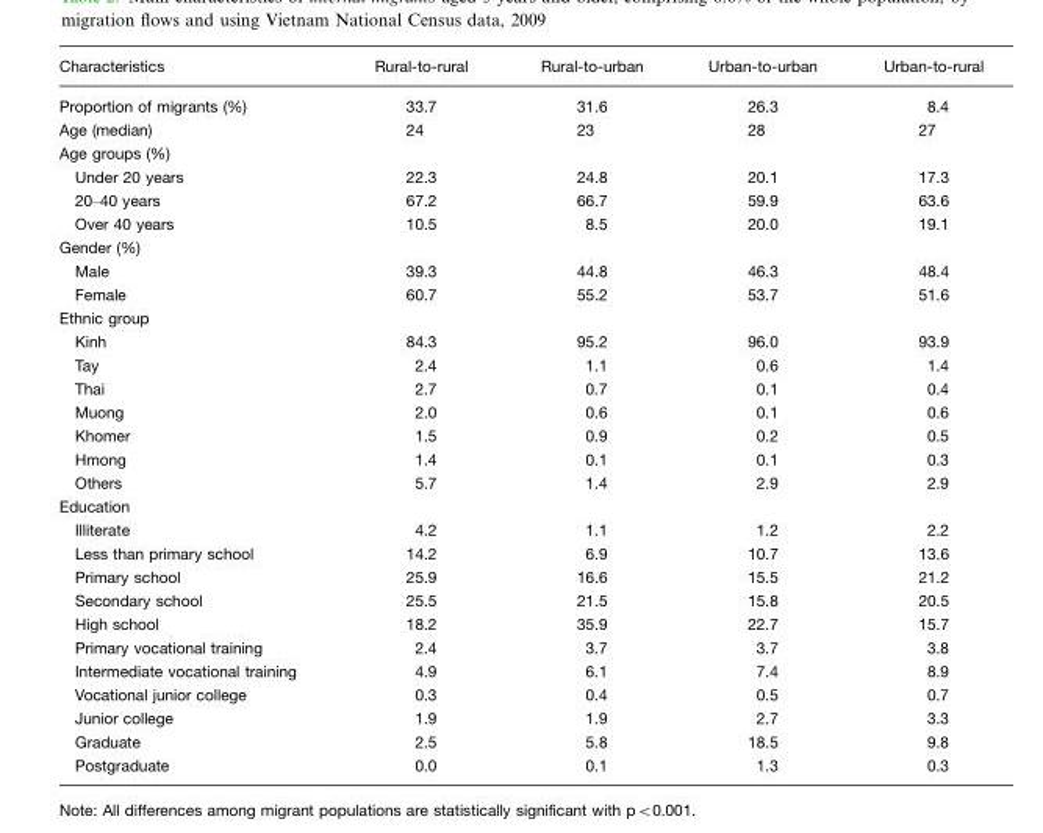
<table><thead><tr><td>Characteristics</td><td>Rural-to-rural</td><td>Rural-to-urban</td><td>Urban-to-urban</td><td>Urban-to-rural</td></tr></thead><tbody><tr><td>Proportion of migrants (%)</td><td>33.7</td><td>31.6</td><td>26.3</td><td>8.4</td></tr><tr><td>Age (median)</td><td>24</td><td>23</td><td>28</td><td>27</td></tr><tr><td colspan="5">Age groups (%)</td></tr><tr><td>Under 20 years</td><td>22.3</td><td>24.8</td><td>20.1</td><td>17.3</td></tr><tr><td>20–40 years</td><td>67.2</td><td>66.7</td><td>59.9</td><td>63.6</td></tr><tr><td>Over 40 years</td><td>10.5</td><td>8.5</td><td>20.0</td><td>19.1</td></tr><tr><td colspan="5">Gender (%)</td></tr><tr><td>Male</td><td>39.3</td><td>44.8</td><td>46.3</td><td>48.4</td></tr><tr><td>Female</td><td>60.7</td><td>55.2</td><td>53.7</td><td>51.6</td></tr><tr><td colspan="5">Ethnic group</td></tr><tr><td>Kinh</td><td>84.3</td><td>95.2</td><td>96.0</td><td>93.9</td></tr><tr><td>Tay</td><td>2.4</td><td>1.1</td><td>0.6</td><td>1.4</td></tr><tr><td>Thai</td><td>2.7</td><td>0.7</td><td>0.1</td><td>0.4</td></tr><tr><td>Muong</td><td>2.0</td><td>0.6</td><td>0.1</td><td>0.6</td></tr><tr><td>Khomer</td><td>1.5</td><td>0.9</td><td>0.2</td><td>0.5</td></tr><tr><td>Hmong</td><td>1.4</td><td>0.1</td><td>0.1</td><td>0.3</td></tr><tr><td>Others</td><td>5.7</td><td>1.4</td><td>2.9</td><td>2.9</td></tr><tr><td colspan="5">Education</td></tr><tr><td>Illiterate</td><td>4.2</td><td>1.1</td><td>1.2</td><td>2.2</td></tr><tr><td>Less than primary school</td><td>14.2</td><td>6.9</td><td>10.7</td><td>13.6</td></tr><tr><td>Primary school</td><td>25.9</td><td>16.6</td><td>15.5</td><td>21.2</td></tr><tr><td>Secondary school</td><td>25.5</td><td>21.5</td><td>15.8</td><td>20.5</td></tr><tr><td>High school</td><td>18.2</td><td>35.9</td><td>22.7</td><td>15.7</td></tr><tr><td>Primary vocational training</td><td>2.4</td><td>3.7</td><td>3.7</td><td>3.8</td></tr><tr><td>Intermediate vocational training</td><td>4.9</td><td>6.1</td><td>7.4</td><td>8.9</td></tr><tr><td>Vocational junior college</td><td>0.3</td><td>0.4</td><td>0.5</td><td>0.7</td></tr><tr><td>Junior college</td><td>1.9</td><td>1.9</td><td>2.7</td><td>3.3</td></tr><tr><td>Graduate</td><td>2.5</td><td>5.8</td><td>18.5</td><td>9.8</td></tr><tr><td>Postgraduate</td><td>0.0</td><td>0.1</td><td>1.3</td><td>0.3</td></tr></tbody></table>